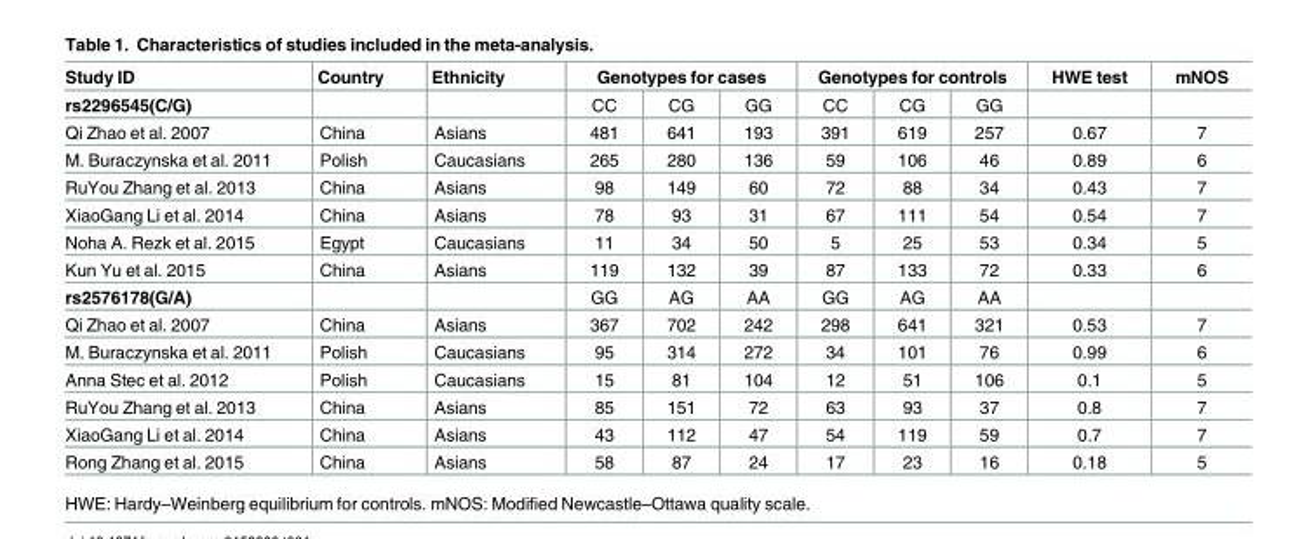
<table><thead><tr><td rowspan="2">Study ID rs2296545(C/G)</td><td rowspan="2">Country</td><td rowspan="2">Ethnicity</td><td colspan="3">Genotypes for cases</td><td colspan="3">Genotypes for controls</td><td rowspan="2">HWE test</td><td rowspan="2">mNOS</td></tr><tr><td>CC</td><td>CG</td><td>GG</td><td>CC</td><td>CG</td><td>GG</td></tr></thead><tbody><tr><td>Qi Zhao et al. 2007</td><td>China</td><td>Asians</td><td>481</td><td>641</td><td>193</td><td>391</td><td>619</td><td>257</td><td>0.67</td><td>7</td></tr><tr><td>M. Buraczynska et al. 2011</td><td>Polish</td><td>Caucasians</td><td>265</td><td>280</td><td>136</td><td>59</td><td>106</td><td>46</td><td>0.89</td><td>6</td></tr><tr><td>RuYou Zhang et al. 2013</td><td>China</td><td>Asians</td><td>98</td><td>149</td><td>60</td><td>72</td><td>88</td><td>34</td><td>0.43</td><td>7</td></tr><tr><td>XiaoGang Li et al. 2014</td><td>China</td><td>Asians</td><td>78</td><td>93</td><td>31</td><td>67</td><td>111</td><td>54</td><td>0.54</td><td>7</td></tr><tr><td>Noha A. Rezk et al. 2015</td><td>Egypt</td><td>Caucasians</td><td>11</td><td>34</td><td>50</td><td>5</td><td>25</td><td>53</td><td>0.34</td><td>5</td></tr><tr><td>Kun Yu et al. 2015</td><td>China</td><td>Asians</td><td>119</td><td>132</td><td>39</td><td>87</td><td>133</td><td>72</td><td>0.33</td><td>6</td></tr><tr><td>rs2576178(G/A)</td><td></td><td></td><td>GG</td><td>AG</td><td>AA</td><td>GG</td><td>AG</td><td>AA</td><td></td><td></td></tr><tr><td>Qi Zhao et al. 2007</td><td>China</td><td>Asians</td><td>367</td><td>702</td><td>242</td><td>298</td><td>641</td><td>321</td><td>0.53</td><td>7</td></tr><tr><td>M. Buraczynska et al. 2011</td><td>Polish</td><td>Caucasians</td><td>95</td><td>314</td><td>272</td><td>34</td><td>101</td><td>76</td><td>0.99</td><td>6</td></tr><tr><td>Anna Stec et al. 2012</td><td>Polish</td><td>Caucasians</td><td>15</td><td>81</td><td>104</td><td>12</td><td>51</td><td>106</td><td>0.1</td><td>5</td></tr><tr><td>RuYou Zhang et al. 2013</td><td>China</td><td>Asians</td><td>85</td><td>151</td><td>72</td><td>63</td><td>93</td><td>37</td><td>0.8</td><td>7</td></tr><tr><td>XiaoGang Li et al. 2014</td><td>China</td><td>Asians</td><td>43</td><td>112</td><td>47</td><td>54</td><td>119</td><td>59</td><td>0.7</td><td>7</td></tr><tr><td>Rong Zhang et al. 2015</td><td>China</td><td>Asians</td><td>58</td><td>87</td><td>24</td><td>17</td><td>23</td><td>16</td><td>0.18</td><td>5</td></tr></tbody></table>